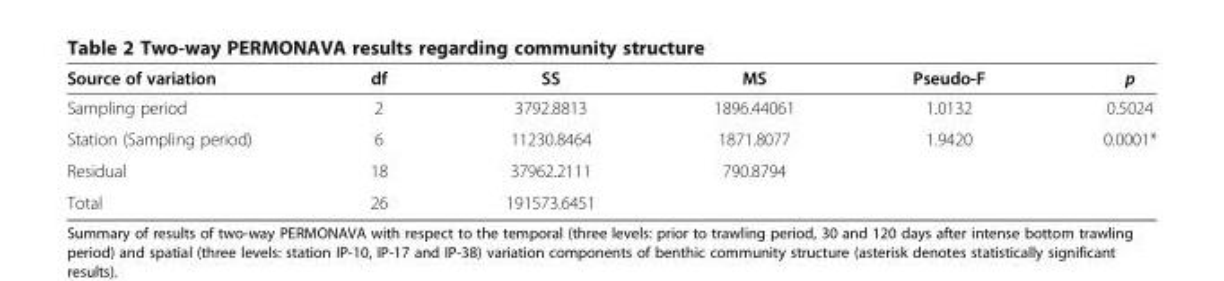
<table><thead><tr><td>Source of variation</td><td>df</td><td>SS</td><td>MS</td><td>Pseudo-F</td><td>p</td></tr></thead><tbody><tr><td>Sampling period</td><td>2</td><td>3792.8813</td><td>1896.44061</td><td>1.0132</td><td>0.5024</td></tr><tr><td>Station (Sampling period)</td><td>6</td><td>11230.8464</td><td>1871.8077</td><td>1.9420</td><td>0.0001*</td></tr><tr><td>Residual</td><td>18</td><td>37962.2111</td><td>790.8794</td><td></td><td></td></tr><tr><td>Total</td><td>26</td><td>191573.6451</td><td></td><td></td><td></td></tr></tbody></table>